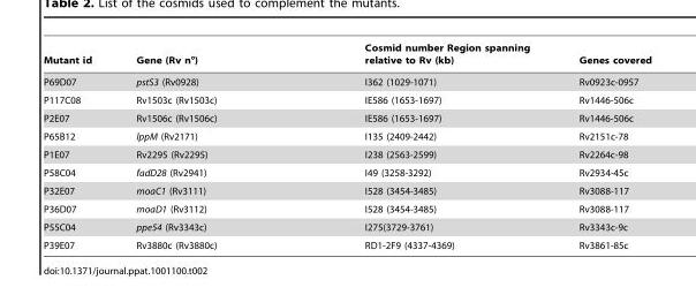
<table><thead><tr><td>Mutant id</td><td>Gene (Rv n°)</td><td>Cosmid number Region spanning relative to Rv (kb)</td><td>Genes covered</td></tr></thead><tbody><tr><td>P69D07</td><td>pstS3 (Rv0928)</td><td>I362 (1029-1071)</td><td>Rv0923c-0957</td></tr><tr><td>P117C08</td><td>Rv1503c (Rv1503c)</td><td>IE586 (1653-1697)</td><td>Rv1446-506c</td></tr><tr><td>P2E07</td><td>Rv1506c (Rv1506c)</td><td>IE586 (1653-1697)</td><td>Rv1446-506c</td></tr><tr><td>P65B12</td><td>lppM (Rv2171)</td><td>I135 (2409-2442)</td><td>Rv2151c-78</td></tr><tr><td>P1E07</td><td>Rv2295 (Rv2295)</td><td>I238 (2563-2599)</td><td>Rv2264c-98</td></tr><tr><td>P58C04</td><td>fadD28 (Rv2941)</td><td>I49 (3258-3292)</td><td>Rv2934-45c</td></tr><tr><td>P32E07</td><td>moaC1 (Rv3111)</td><td>I528 (3454-3485)</td><td>Rv3088-117</td></tr><tr><td>P36D07</td><td>moaD1 (Rv3112)</td><td>I528 (3454-3485)</td><td>Rv3088-117</td></tr><tr><td>P55C04</td><td>ppe54 (Rv3343c)</td><td>I275(3729-3761)</td><td>Rv3343c-9c</td></tr><tr><td>P39E07</td><td>Rv3880c (Rv3880c)</td><td>RD1-2F9 (4337-4369)</td><td>Rv3861-85c</td></tr></tbody></table>